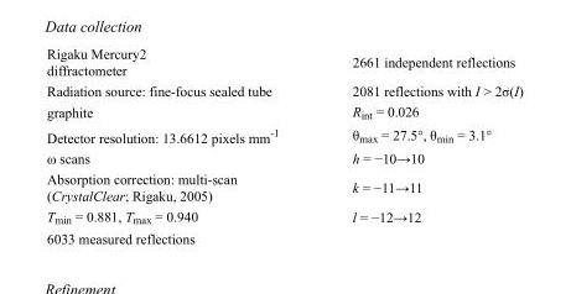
<table><tbody><tr><td>Rigaku Mercury2 diffractometer</td><td>2661 independent reflections</td></tr><tr><td>Radiation source: fine-focus sealed tube</td><td>2081 reflections with I &gt; 2σ(I)</td></tr><tr><td>graphite</td><td>R<sub>int</sub> = 0.026</td></tr><tr><td>Detector resolution: 13.6612 pixels mm<sup>-1</sup></td><td>θ<sub>max</sub> = 27.5°, θ<sub>min</sub> = 3.1°</td></tr><tr><td>ω scans</td><td>h = −10→10</td></tr><tr><td>Absorption correction: multi-scan (CrystalClear; Rigaku, 2005)</td><td>k = −11→11</td></tr><tr><td>T<sub>min</sub> = 0.881, T<sub>max</sub> = 0.940</td><td>l = −12→12</td></tr><tr><td>6033 measured reflections</td><td></td></tr></tbody></table>